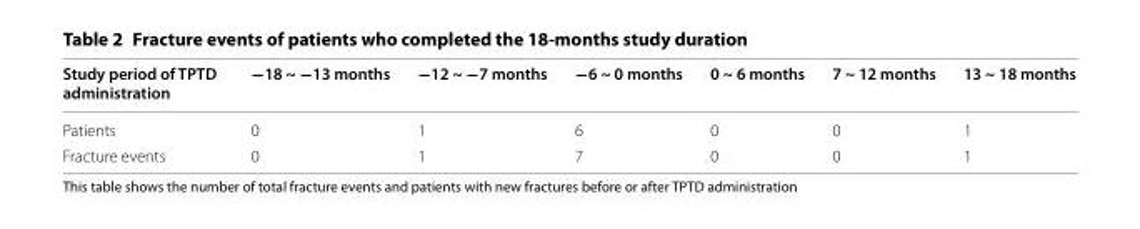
<table><thead><tr><td>Study period of TPTD administration</td><td>−18 ~ −13 months</td><td>−12 ~ −7 months</td><td>−6 ~ 0 months</td><td>0 ~ 6 months</td><td>7 ~ 12 months</td><td>13 ~ 18 months</td></tr></thead><tbody><tr><td>Patients</td><td>0</td><td>1</td><td>6</td><td>0</td><td>0</td><td>1</td></tr><tr><td>Fracture events</td><td>0</td><td>1</td><td>7</td><td>0</td><td>0</td><td>1</td></tr></tbody></table>